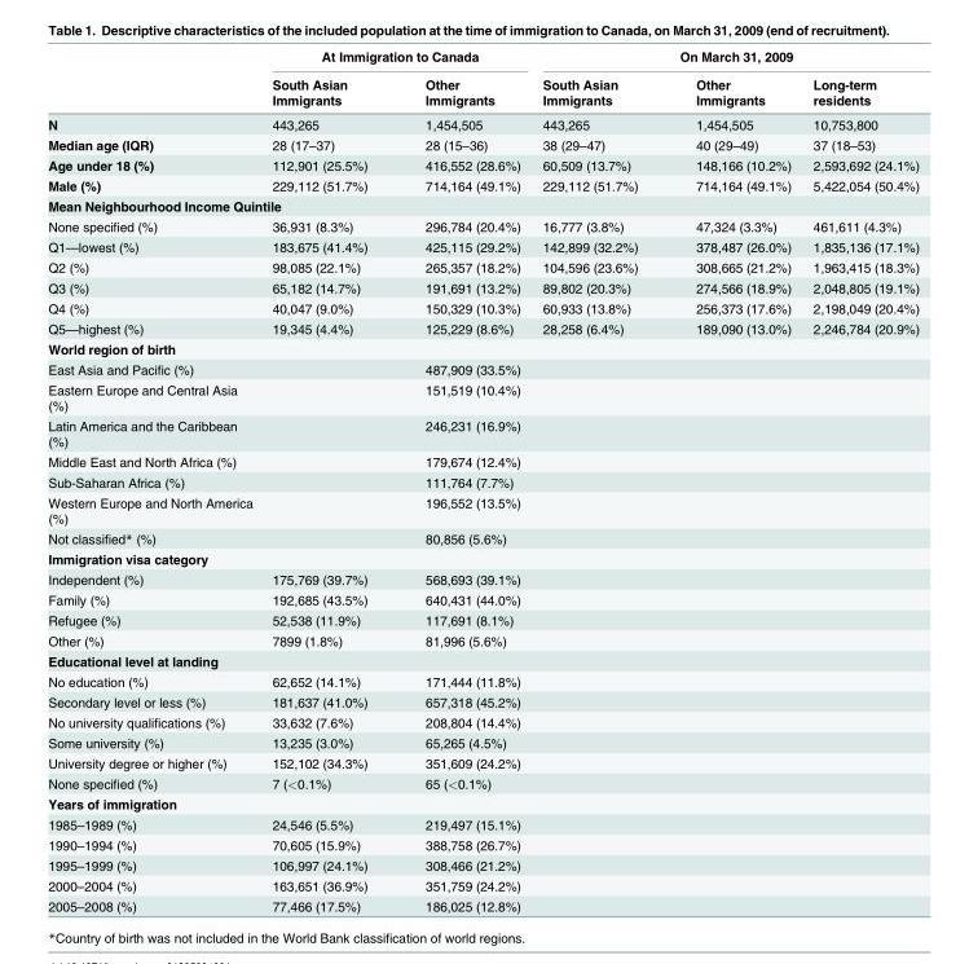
<table><thead><tr><td rowspan="2"></td><td colspan="2">At Immigration to Canada</td><td colspan="3">On March 31, 2009</td></tr><tr><td>South Asian Immigrants</td><td>Other Immigrants</td><td>South Asian Immigrants</td><td>Other Immigrants</td><td>Long-term residents</td></tr></thead><tbody><tr><td>N</td><td>443,265</td><td>1,454,505</td><td>443,265</td><td>1,454,505</td><td>10,753,800</td></tr><tr><td>Median age (IQR)</td><td>28 (17–37)</td><td>28 (15–36)</td><td>38 (29–47)</td><td>40 (29–49)</td><td>37 (18–53)</td></tr><tr><td>Age under 18 (%)</td><td>112,901 (25.5%)</td><td>416,552 (28.6%)</td><td>60,509 (13.7%)</td><td>148,166 (10.2%)</td><td>2,593,692 (24.1%)</td></tr><tr><td>Male (%)</td><td>229,112 (51.7%)</td><td>714,164 (49.1%)</td><td>229,112 (51.7%)</td><td>714,164 (49.1%)</td><td>5,422,054 (50.4%)</td></tr><tr><td colspan="6">Mean Neighbourhood Income Quintile</td></tr><tr><td>None specified (%)</td><td>36,931 (8.3%)</td><td>296,784 (20.4%)</td><td>16,777 (3.8%)</td><td>47,324 (3.3%)</td><td>461,611 (4.3%)</td></tr><tr><td>Q1—lowest (%)</td><td>183,675 (41.4%)</td><td>425,115 (29.2%)</td><td>142,899 (32.2%)</td><td>378,487 (26.0%)</td><td>1,835,136 (17.1%)</td></tr><tr><td>Q2 (%)</td><td>98,085 (22.1%)</td><td>265,357 (18.2%)</td><td>104,596 (23.6%)</td><td>308,665 (21.2%)</td><td>1,963,415 (18.3%)</td></tr><tr><td>Q3 (%)</td><td>65,182 (14.7%)</td><td>191,691 (13.2%)</td><td>89,802 (20.3%)</td><td>274,566 (18.9%)</td><td>2,048,805 (19.1%)</td></tr><tr><td>Q4 (%)</td><td>40,047 (9.0%)</td><td>150,329 (10.3%)</td><td>60,933 (13.8%)</td><td>256,373 (17.6%)</td><td>2,198,049 (20.4%)</td></tr><tr><td>Q5—highest (%)</td><td>19,345 (4.4%)</td><td>125,229 (8.6%)</td><td>28,258 (6.4%)</td><td>189,090 (13.0%)</td><td>2,246,784 (20.9%)</td></tr><tr><td colspan="6">World region of birth</td></tr><tr><td>East Asia and Pacific (%)</td><td></td><td>487,909 (33.5%)</td><td></td><td></td><td></td></tr><tr><td>Eastern Europe and Central Asia (%)</td><td></td><td>151,519 (10.4%)</td><td></td><td></td><td></td></tr><tr><td>Latin America and the Caribbean (%)</td><td></td><td>246,231 (16.9%)</td><td></td><td></td><td></td></tr><tr><td>Middle East and North Africa (%)</td><td></td><td>179,674 (12.4%)</td><td></td><td></td><td></td></tr><tr><td>Sub-Saharan Africa (%)</td><td></td><td>111,764 (7.7%)</td><td></td><td></td><td></td></tr><tr><td>Western Europe and North America (%)</td><td></td><td>196,552 (13.5%)</td><td></td><td></td><td></td></tr><tr><td>Not classified* (%)</td><td></td><td>80,856 (5.6%)</td><td></td><td></td><td></td></tr><tr><td colspan="6">Immigration visa category</td></tr><tr><td>Independent (%)</td><td>175,769 (39.7%)</td><td>568,693 (39.1%)</td><td></td><td></td><td></td></tr><tr><td>Family (%)</td><td>192,685 (43.5%)</td><td>640,431 (44.0%)</td><td></td><td></td><td></td></tr><tr><td>Refugee (%)</td><td>52,538 (11.9%)</td><td>117,691 (8.1%)</td><td></td><td></td><td></td></tr><tr><td>Other (%)</td><td>7899 (1.8%)</td><td>81,996 (5.6%)</td><td></td><td></td><td></td></tr><tr><td colspan="6">Educational level at landing</td></tr><tr><td>No education (%)</td><td>62,652 (14.1%)</td><td>171,444 (11.8%)</td><td></td><td></td><td></td></tr><tr><td>Secondary level or less (%)</td><td>181,637 (41.0%)</td><td>657,318 (45.2%)</td><td></td><td></td><td></td></tr><tr><td>No university qualifications (%)</td><td>33,632 (7.6%)</td><td>208,804 (14.4%)</td><td></td><td></td><td></td></tr><tr><td>Some university (%)</td><td>13,235 (3.0%)</td><td>65,265 (4.5%)</td><td></td><td></td><td></td></tr><tr><td>University degree or higher (%)</td><td>152,102 (34.3%)</td><td>351,609 (24.2%)</td><td></td><td></td><td></td></tr><tr><td>None specified (%)</td><td>7 (&lt;0.1%)</td><td>65 (&lt;0.1%)</td><td></td><td></td><td></td></tr><tr><td colspan="6">Years of immigration</td></tr><tr><td>1985–1989 (%)</td><td>24,546 (5.5%)</td><td>219,497 (15.1%)</td><td></td><td></td><td></td></tr><tr><td>1990–1994 (%)</td><td>70,605 (15.9%)</td><td>388,758 (26.7%)</td><td></td><td></td><td></td></tr><tr><td>1995–1999 (%)</td><td>106,997 (24.1%)</td><td>308,466 (21.2%)</td><td></td><td></td><td></td></tr><tr><td>2000–2004 (%)</td><td>163,651 (36.9%)</td><td>351,759 (24.2%)</td><td></td><td></td><td></td></tr><tr><td>2005–2008 (%)</td><td>77,466 (17.5%)</td><td>186,025 (12.8%)</td><td></td><td></td><td></td></tr></tbody></table>